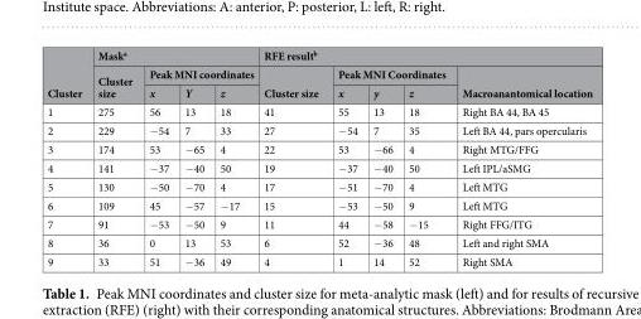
<table><thead><tr><td rowspan="3">Cluster</td><td colspan="4">Mask<sup>a</sup></td><td colspan="5">RFE result<sup>b</sup></td></tr><tr><td rowspan="2">Cluster size</td><td colspan="3">Peak MNI coordinates</td><td rowspan="2">Cluster size</td><td colspan="3">Peak MNI Coordinates</td><td rowspan="2">Macroanantomical location</td></tr><tr><td>x</td><td>Y</td><td>z</td><td>x</td><td>y</td><td>z</td></tr></thead><tbody><tr><td>1</td><td>275</td><td>56</td><td>13</td><td>18</td><td>41</td><td>55</td><td>13</td><td>18</td><td>Right BA 44, BA 45</td></tr><tr><td>2</td><td>229</td><td>−54</td><td>7</td><td>33</td><td>27</td><td>−54</td><td>7</td><td>35</td><td>Left BA 44, pars opercularis</td></tr><tr><td>3</td><td>174</td><td>53</td><td>−65</td><td>4</td><td>22</td><td>53</td><td>−66</td><td>4</td><td>Right MTG/FFG</td></tr><tr><td>4</td><td>141</td><td>−37</td><td>−40</td><td>50</td><td>19</td><td>−37</td><td>−40</td><td>50</td><td>Left IPL/aSMG</td></tr><tr><td>5</td><td>130</td><td>−50</td><td>−70</td><td>4</td><td>17</td><td>−51</td><td>−70</td><td>4</td><td>Left MTG</td></tr><tr><td>6</td><td>109</td><td>45</td><td>−57</td><td>−17</td><td>15</td><td>−53</td><td>−50</td><td>9</td><td>Left MTG</td></tr><tr><td>7</td><td>91</td><td>−53</td><td>−50</td><td>9</td><td>11</td><td>44</td><td>−58</td><td>−15</td><td>Right FFG/ITG</td></tr><tr><td>8</td><td>36</td><td>0</td><td>13</td><td>53</td><td>6</td><td>52</td><td>−36</td><td>48</td><td>Left and right SMA</td></tr><tr><td>9</td><td>33</td><td>51</td><td>−36</td><td>49</td><td>4</td><td>1</td><td>14</td><td>52</td><td>Right SMA</td></tr></tbody></table>